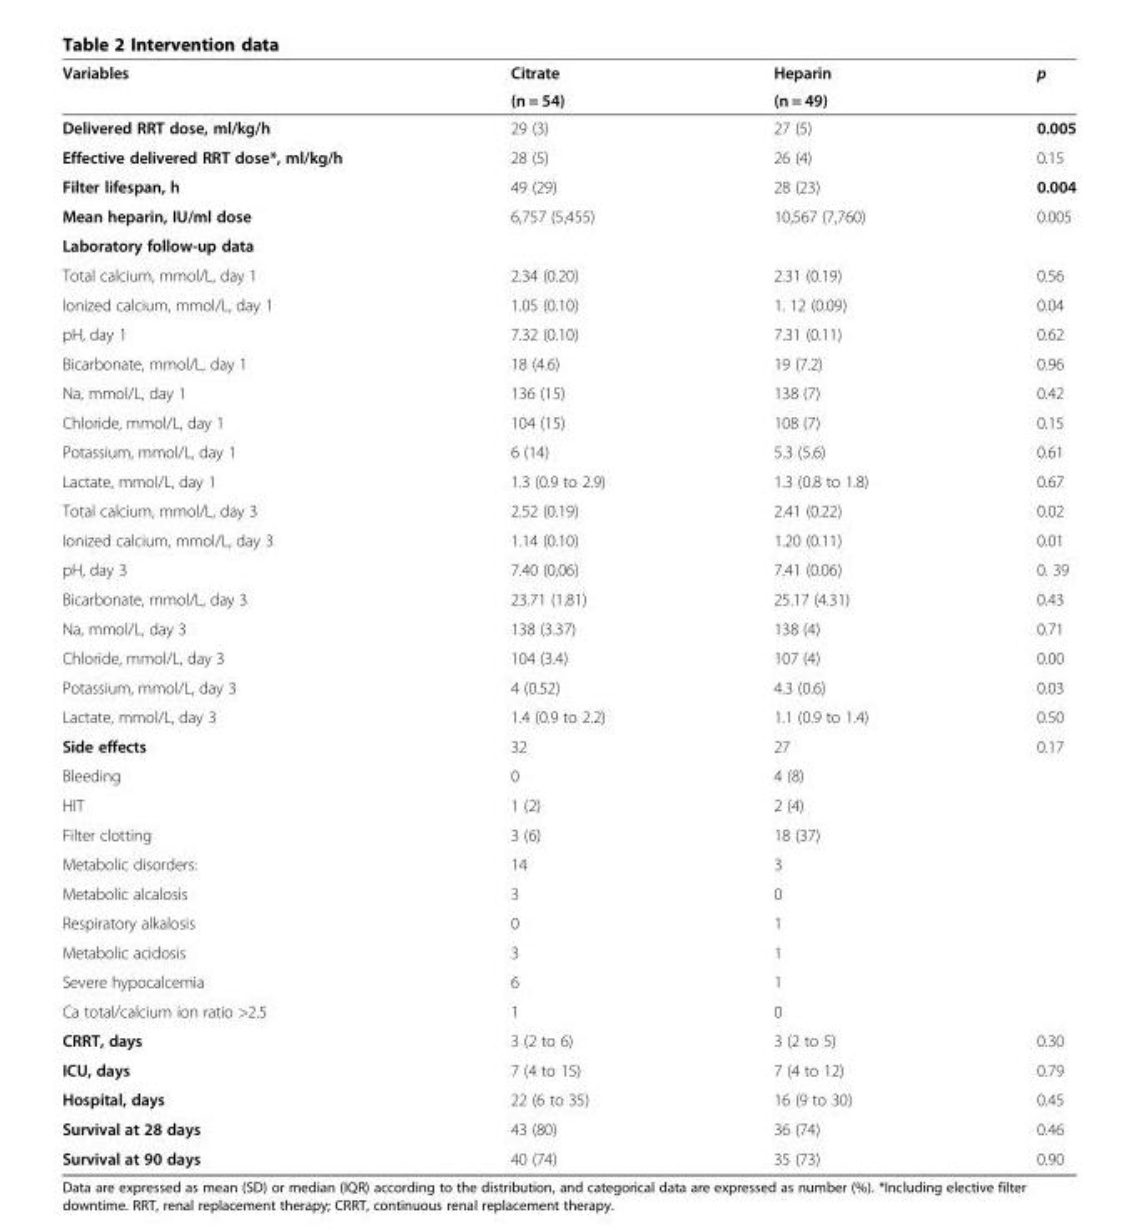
<table><thead><tr><td rowspan="2">Variables</td><td rowspan="2">Citrate (n = 54)</td><td rowspan="2">Heparin (n = 49)</td><td rowspan="2">p</td></tr><tr></tr></thead><tbody><tr><td>Delivered RRT dose, ml/kg/h</td><td>29 (3)</td><td>27 (5)</td><td>0.005</td></tr><tr><td>Effective delivered RRT dose*, ml/kg/h</td><td>28 (5)</td><td>26 (4)</td><td>0.15</td></tr><tr><td>Filter lifespan, h</td><td>49 (29)</td><td>28 (23)</td><td>0.004</td></tr><tr><td>Mean heparin, IU/ml dose</td><td>6,757 (5,455)</td><td>10,567 (7,760)</td><td>0.005</td></tr><tr><td colspan="4">Laboratory follow-up data</td></tr><tr><td>Total calcium, mmol/L, day 1</td><td>2.34 (0.20)</td><td>2.31 (0.19)</td><td>0.56</td></tr><tr><td>Ionized calcium, mmol/L, day 1</td><td>1.05 (0.10)</td><td>1. 12 (0.09)</td><td>0.04</td></tr><tr><td>pH, day 1</td><td>7.32 (0.10)</td><td>7.31 (0.11)</td><td>0.62</td></tr><tr><td>Bicarbonate, mmol/L, day 1</td><td>18 (4.6)</td><td>19 (7.2)</td><td>0.96</td></tr><tr><td>Na, mmol/L, day 1</td><td>136 (15)</td><td>138 (7)</td><td>0.42</td></tr><tr><td>Chloride, mmol/L, day 1</td><td>104 (15)</td><td>108 (7)</td><td>0.15</td></tr><tr><td>Potassium, mmol/L, day 1</td><td>6 (14)</td><td>5.3 (5.6)</td><td>0.61</td></tr><tr><td>Lactate, mmol/L, day 1</td><td>1.3 (0.9 to 2.9)</td><td>1.3 (0.8 to 1.8)</td><td>0.67</td></tr><tr><td>Total calcium, mmol/L, day 3</td><td>2.52 (0.19)</td><td>2.41 (0.22)</td><td>0.02</td></tr><tr><td>Ionized calcium, mmol/L, day 3</td><td>1.14 (0.10)</td><td>1.20 (0.11)</td><td>0.01</td></tr><tr><td>pH, day 3</td><td>7.40 (0,06)</td><td>7.41 (0.06)</td><td>0. 39</td></tr><tr><td>Bicarbonate, mmol/L, day 3</td><td>23.71 (1.81)</td><td>25.17 (4.31)</td><td>0.43</td></tr><tr><td>Na, mmol/L, day 3</td><td>138 (3.37)</td><td>138 (4)</td><td>0.71</td></tr><tr><td>Chloride, mmol/L, day 3</td><td>104 (3.4)</td><td>107 (4)</td><td>0.00</td></tr><tr><td>Potassium, mmol/L, day 3</td><td>4 (0.52)</td><td>4.3 (0.6)</td><td>0.03</td></tr><tr><td>Lactate, mmol/L, day 3</td><td>1.4 (0.9 to 2.2)</td><td>1.1 (0.9 to 1.4)</td><td>0.50</td></tr><tr><td>Side effects</td><td>32</td><td>27</td><td>0.17</td></tr><tr><td>Bleeding</td><td>0</td><td>4 (8)</td><td></td></tr><tr><td>HIT</td><td>1 (2)</td><td>2 (4)</td><td></td></tr><tr><td>Filter clotting</td><td>3 (6)</td><td>18 (37)</td><td></td></tr><tr><td>Metabolic disorders:</td><td>14</td><td>3</td><td></td></tr><tr><td>Metabolic alcalosis</td><td>3</td><td>0</td><td></td></tr><tr><td>Respiratory alkalosis</td><td>0</td><td>1</td><td></td></tr><tr><td>Metabolic acidosis</td><td>3</td><td>1</td><td></td></tr><tr><td>Severe hypocalcemia</td><td>6</td><td>1</td><td></td></tr><tr><td>Ca total/calcium ion ratio &gt;2.5</td><td>1</td><td>0</td><td></td></tr><tr><td>CRRT, days</td><td>3 (2 to 6)</td><td>3 (2 to 5)</td><td>0.30</td></tr><tr><td>ICU, days</td><td>7 (4 to 15)</td><td>7 (4 to 12)</td><td>0.79</td></tr><tr><td>Hospital, days</td><td>22 (6 to 35)</td><td>16 (9 to 30)</td><td>0.45</td></tr><tr><td>Survival at 28 days</td><td>43 (80)</td><td>36 (74)</td><td>0.46</td></tr><tr><td>Survival at 90 days</td><td>40 (74)</td><td>35 (73)</td><td>0.90</td></tr></tbody></table>